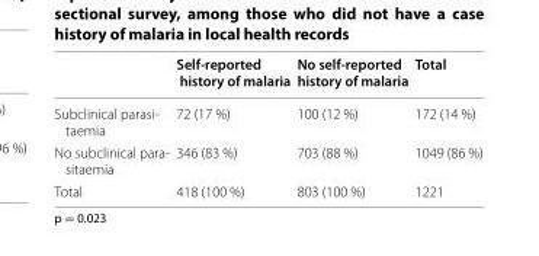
<table><thead><tr><td></td><td>Self‑reported history of malaria</td><td>No self‑reported history of malaria</td><td>Total</td></tr></thead><tbody><tr><td>Subclinical parasi- taemia</td><td>72 (17 %)</td><td>100 (12 %)</td><td>172 (14 %)</td></tr><tr><td>No subclinical para- sitaemia</td><td>346 (83 %)</td><td>703 (88 %)</td><td>1049 (86 %)</td></tr><tr><td>Total</td><td>418 (100 %)</td><td>803 (100 %)</td><td>1221</td></tr></tbody></table>